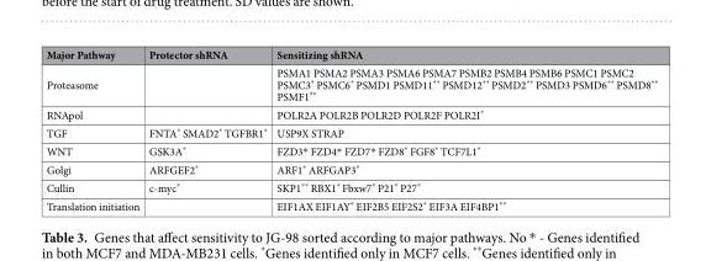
<table><thead><tr><td>Major Pathway</td><td>Protector shRNA</td><td>Sensitizing shRNA</td></tr></thead><tbody><tr><td>Proteasome</td><td></td><td>PSMA1 PSMA2 PSMA3 PSMA6 PSMA7 PSMB2 PSMB4 PSMB6 PSMC1 PSMC2 PSMC3* PSMC6* PSMD1 PSMD11** PSMD12** PSMD2** PSMD3 PSMD6** PSMD8** PSMF1**</td></tr><tr><td>RNApol</td><td></td><td>POLR2A POLR2B POLR2D POLR2F POLR2I*</td></tr><tr><td>TGF</td><td>FNTA* SMAD2* TGFBR1*</td><td>USP9X STRAP</td></tr><tr><td>WNT</td><td>GSK3A*</td><td>FZD3* FZD4* FZD7* FZD8* FGF8* TCF7L1*</td></tr><tr><td>Golgi</td><td>ARFGEF2*</td><td>ARF1* ARFGAP3*</td></tr><tr><td>Cullin</td><td>c-myc*</td><td>SKP1** RBX1* Fbxw7* P21* P27*</td></tr><tr><td>Translation initiation</td><td></td><td>EIF1AX EIF1AY* EIF2B5 EIF2S2* EIF3A EIF4BP1**</td></tr></tbody></table>